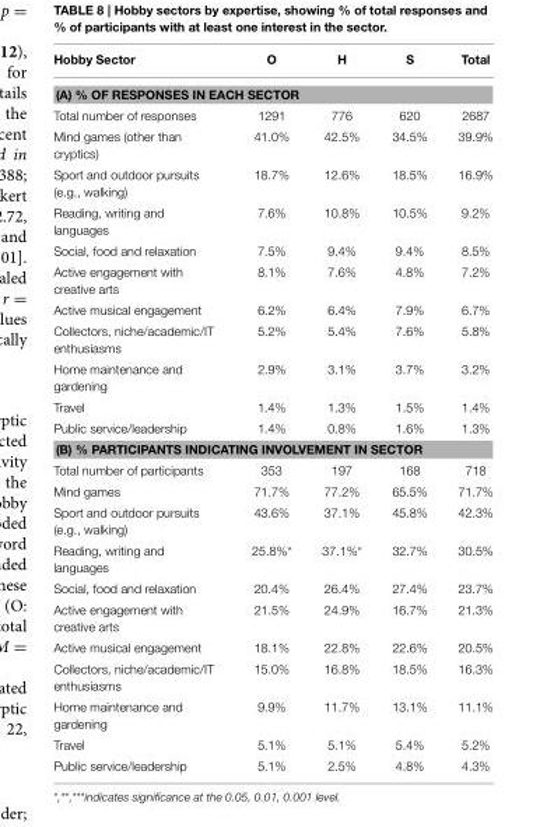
<table><thead><tr><td>Hobby Sector</td><td>O</td><td>H</td><td>S</td><td>Total</td></tr></thead><tbody><tr><td colspan="5">(A) % OF RESPONSES IN EACH SECTOR</td></tr><tr><td>Total number of responses</td><td>1291</td><td>776</td><td>620</td><td>2687</td></tr><tr><td>Mind games (other than cryptics)</td><td>41.0%</td><td>42.5%</td><td>34.5%</td><td>39.9%</td></tr><tr><td>Sport and outdoor pursuits (e.g., walking)</td><td>18.7%</td><td>12.6%</td><td>18.5%</td><td>16.9%</td></tr><tr><td>Reading, writing and languages</td><td>7.6%</td><td>10.8%</td><td>10.5%</td><td>9.2%</td></tr><tr><td>Social, food and relaxation</td><td>7.5%</td><td>9.4%</td><td>9.4%</td><td>8.5%</td></tr><tr><td>Active engagement with creative arts</td><td>8.1%</td><td>7.6%</td><td>4.8%</td><td>7.2%</td></tr><tr><td>Active musical engagement</td><td>6.2%</td><td>6.4%</td><td>7.9%</td><td>6.7%</td></tr><tr><td>Collectors, niche/academic/IT enthusiasms</td><td>5.2%</td><td>5.4%</td><td>7.6%</td><td>5.8%</td></tr><tr><td>Home maintenance and gardening</td><td>2.9%</td><td>3.1%</td><td>3.7%</td><td>3.2%</td></tr><tr><td>Travel</td><td>1.4%</td><td>1.3%</td><td>1.5%</td><td>1.4%</td></tr><tr><td>Public service/leadership</td><td>1.4%</td><td>0.8%</td><td>1.6%</td><td>1.3%</td></tr><tr><td colspan="5">(B) % PARTICIPANTS INDICATING INVOLVEMENT IN SECTOR</td></tr><tr><td>Total number of participants</td><td>353</td><td>197</td><td>168</td><td>718</td></tr><tr><td>Mind games</td><td>71.7%</td><td>77.2%</td><td>65.5%</td><td>71.7%</td></tr><tr><td>Sport and outdoor pursuits (e.g., walking)</td><td>43.6%</td><td>37.1%</td><td>45.8%</td><td>42.3%</td></tr><tr><td>Reading, writing and languages</td><td>25.8%*</td><td>37.1%*</td><td>32.7%</td><td>30.5%</td></tr><tr><td>Social, food and relaxation</td><td>20.4%</td><td>26.4%</td><td>27.4%</td><td>23.7%</td></tr><tr><td>Active engagement with creative arts</td><td>21.5%</td><td>24.9%</td><td>16.7%</td><td>21.3%</td></tr><tr><td>Active musical engagement</td><td>18.1%</td><td>22.8%</td><td>22.6%</td><td>20.5%</td></tr><tr><td>Collectors, niche/academic/IT enthusiasms</td><td>15.0%</td><td>16.8%</td><td>18.5%</td><td>16.3%</td></tr><tr><td>Home maintenance and gardening</td><td>9.9%</td><td>11.7%</td><td>13.1%</td><td>11.1%</td></tr><tr><td>Travel</td><td>5.1%</td><td>5.1%</td><td>5.4%</td><td>5.2%</td></tr><tr><td>Public service/leadership</td><td>5.1%</td><td>2.5%</td><td>4.8%</td><td>4.3%</td></tr></tbody></table>